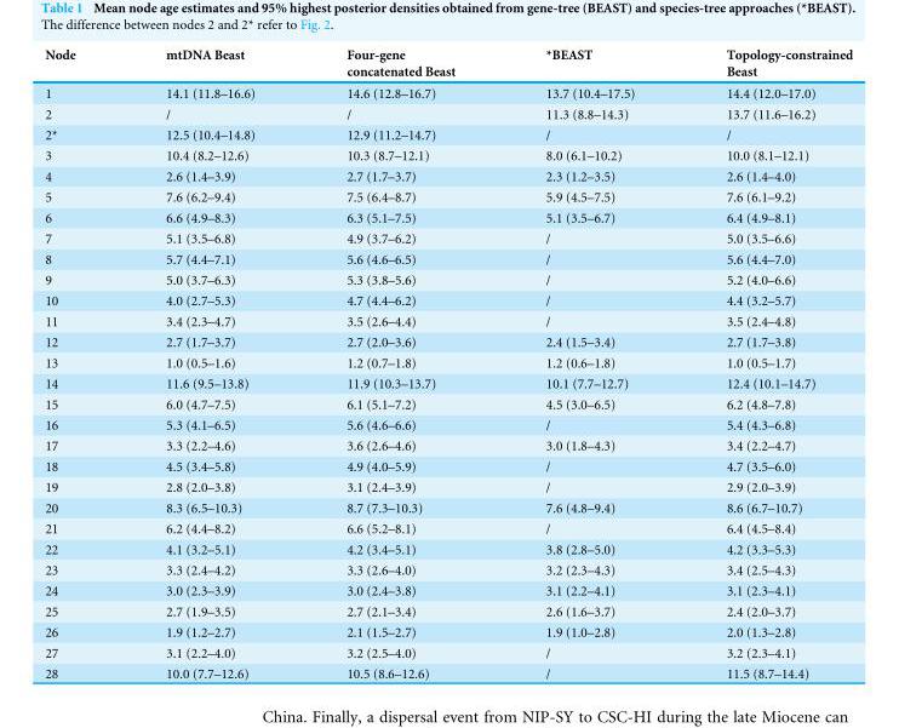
<table><thead><tr><td>Node</td><td>mtDNA Beast</td><td>Four-gene concatenated Beast</td><td>*BEAST</td><td>Topology-constrained Beast</td></tr></thead><tbody><tr><td>1</td><td>14.1 (11.8–16.6)</td><td>14.6 (12.8–16.7)</td><td>13.7 (10.4–17.5)</td><td>14.4 (12.0–17.0)</td></tr><tr><td>2</td><td>/</td><td>/</td><td>11.3 (8.8–14.3)</td><td>13.7 (11.6–16.2)</td></tr><tr><td>2*</td><td>12.5 (10.4–14.8)</td><td>12.9 (11.2–14.7)</td><td>/</td><td>/</td></tr><tr><td>3</td><td>10.4 (8.2–12.6)</td><td>10.3 (8.7–12.1)</td><td>8.0 (6.1–10.2)</td><td>10.0 (8.1–12.1)</td></tr><tr><td>4</td><td>2.6 (1.4–3.9)</td><td>2.7 (1.7–3.7)</td><td>2.3 (1.2–3.5)</td><td>2.6 (1.4–4.0)</td></tr><tr><td>5</td><td>7.6 (6.2–9.4)</td><td>7.5 (6.4–8.7)</td><td>5.9 (4.5–7.5)</td><td>7.6 (6.1–9.2)</td></tr><tr><td>6</td><td>6.6 (4.9–8.3)</td><td>6.3 (5.1–7.5)</td><td>5.1 (3.5–6.7)</td><td>6.4 (4.9–8.1)</td></tr><tr><td>7</td><td>5.1 (3.5–6.8)</td><td>4.9 (3.7–6.2)</td><td>/</td><td>5.0 (3.5–6.6)</td></tr><tr><td>8</td><td>5.7 (4.4–7.1)</td><td>5.6 (4.6–6.5)</td><td>/</td><td>5.6 (4.4–7.0)</td></tr><tr><td>9</td><td>5.0 (3.7–6.3)</td><td>5.3 (3.8–5.6)</td><td>/</td><td>5.2 (4.0–6.6)</td></tr><tr><td>10</td><td>4.0 (2.7–5.3)</td><td>4.7 (4.4–6.2)</td><td>/</td><td>4.4 (3.2–5.7)</td></tr><tr><td>11</td><td>3.4 (2.3–4.7)</td><td>3.5 (2.6–4.4)</td><td>/</td><td>3.5 (2.4–4.8)</td></tr><tr><td>12</td><td>2.7 (1.7–3.7)</td><td>2.7 (2.0–3.6)</td><td>2.4 (1.5–3.4)</td><td>2.7 (1.7–3.8)</td></tr><tr><td>13</td><td>1.0 (0.5–1.6)</td><td>1.2 (0.7–1.8)</td><td>1.2 (0.6–1.8)</td><td>1.0 (0.5–1.7)</td></tr><tr><td>14</td><td>11.6 (9.5–13.8)</td><td>11.9 (10.3–13.7)</td><td>10.1 (7.7–12.7)</td><td>12.4 (10.1–14.7)</td></tr><tr><td>15</td><td>6.0 (4.7–7.5)</td><td>6.1 (5.1–7.2)</td><td>4.5 (3.0–6.5)</td><td>6.2 (4.8–7.8)</td></tr><tr><td>16</td><td>5.3 (4.1–6.5)</td><td>5.6 (4.6–6.6)</td><td>/</td><td>5.4 (4.3–6.8)</td></tr><tr><td>17</td><td>3.3 (2.2–4.6)</td><td>3.6 (2.6–4.6)</td><td>3.0 (1.8–4.3)</td><td>3.4 (2.2–4.7)</td></tr><tr><td>18</td><td>4.5 (3.4–5.8)</td><td>4.9 (4.0–5.9)</td><td>/</td><td>4.7 (3.5–6.0)</td></tr><tr><td>19</td><td>2.8 (2.0–3.8)</td><td>3.1 (2.4–3.9)</td><td>/</td><td>2.9 (2.0–3.9)</td></tr><tr><td>20</td><td>8.3 (6.5–10.3)</td><td>8.7 (7.3–10.3)</td><td>7.6 (4.8–9.4)</td><td>8.6 (6.7–10.7)</td></tr><tr><td>21</td><td>6.2 (4.4–8.2)</td><td>6.6 (5.2–8.1)</td><td>/</td><td>6.4 (4.5–8.4)</td></tr><tr><td>22</td><td>4.1 (3.2–5.1)</td><td>4.2 (3.4–5.1)</td><td>3.8 (2.8–5.0)</td><td>4.2 (3.3–5.3)</td></tr><tr><td>23</td><td>3.3 (2.4–4.2)</td><td>3.3 (2.6–4.0)</td><td>3.2 (2.3–4.3)</td><td>3.4 (2.5–4.3)</td></tr><tr><td>24</td><td>3.0 (2.3–3.9)</td><td>3.0 (2.4–3.8)</td><td>3.1 (2.2–4.1)</td><td>3.1 (2.3–4.1)</td></tr><tr><td>25</td><td>2.7 (1.9–3.5)</td><td>2.7 (2.1–3.4)</td><td>2.6 (1.6–3.7)</td><td>2.4 (2.0–3.7)</td></tr><tr><td>26</td><td>1.9 (1.2–2.7)</td><td>2.1 (1.5–2.7)</td><td>1.9 (1.0–2.8)</td><td>2.0 (1.3–2.8)</td></tr><tr><td>27</td><td>3.1 (2.2–4.0)</td><td>3.2 (2.5–4.0)</td><td>/</td><td>3.2 (2.3–4.1)</td></tr><tr><td>28</td><td>10.0 (7.7–12.6)</td><td>10.5 (8.6–12.6)</td><td>/</td><td>11.5 (8.7–14.4)</td></tr></tbody></table>